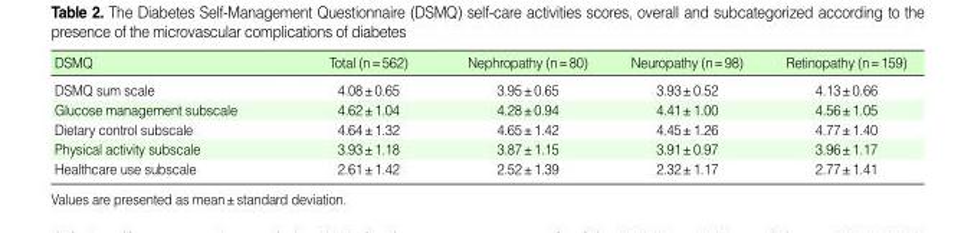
<table><thead><tr><td>DSMQ</td><td>Total (n=562)</td><td>Nephropathy (n=80)</td><td>Neuropathy (n=98)</td><td>Retinopathy (n=159)</td></tr></thead><tbody><tr><td>DSMQ sum scale</td><td>4.08±0.65</td><td>3.95±0.65</td><td>3.93±0.52</td><td>4.13±0.66</td></tr><tr><td>Glucose management subscale</td><td>4.62±1.04</td><td>4.28±0.94</td><td>4.41±1.00</td><td>4.56±1.05</td></tr><tr><td>Dietary control subscale</td><td>4.64±1.32</td><td>4.65±1.42</td><td>4.45±1.26</td><td>4.77±1.40</td></tr><tr><td>Physical activity subscale</td><td>3.93±1.18</td><td>3.87±1.15</td><td>3.91±0.97</td><td>3.96±1.17</td></tr><tr><td>Healthcare use subscale</td><td>2.61±1.42</td><td>2.52±1.39</td><td>2.32±1.17</td><td>2.77±1.41</td></tr></tbody></table>